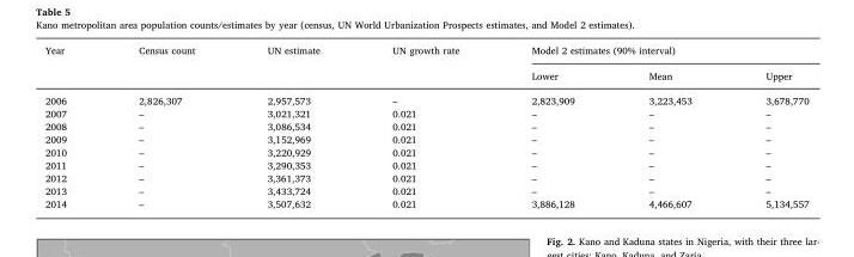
<table><thead><tr><td rowspan="2">Year</td><td rowspan="2">Census count</td><td rowspan="2">UN estimate</td><td rowspan="2">UN growth rate</td><td colspan="3">Model 2 estimates (90% interval)</td></tr><tr><td>Lower</td><td>Mean</td><td>Upper</td></tr></thead><tbody><tr><td>2006</td><td>2,826,307</td><td>2,957,573</td><td>–</td><td>2,823,909</td><td>3,223,453</td><td>3,678,770</td></tr><tr><td>2007</td><td>–</td><td>3,021,321</td><td>0.021</td><td>–</td><td>–</td><td>–</td></tr><tr><td>2008</td><td>–</td><td>3,086,534</td><td>0.021</td><td>–</td><td>–</td><td>–</td></tr><tr><td>2009</td><td>–</td><td>3,152,969</td><td>0.021</td><td>–</td><td>–</td><td>–</td></tr><tr><td>2010</td><td>–</td><td>3,220,929</td><td>0.021</td><td>–</td><td>–</td><td>–</td></tr><tr><td>2011</td><td>–</td><td>3,290,353</td><td>0.021</td><td>–</td><td>–</td><td>–</td></tr><tr><td>2012</td><td>–</td><td>3,361,373</td><td>0.021</td><td>–</td><td>–</td><td>–</td></tr><tr><td>2013</td><td>–</td><td>3,433,724</td><td>0.021</td><td>–</td><td>–</td><td>–</td></tr><tr><td>2014</td><td>–</td><td>3,507,632</td><td>0.021</td><td>3,886,128</td><td>4,466,607</td><td>5,134,557</td></tr></tbody></table>